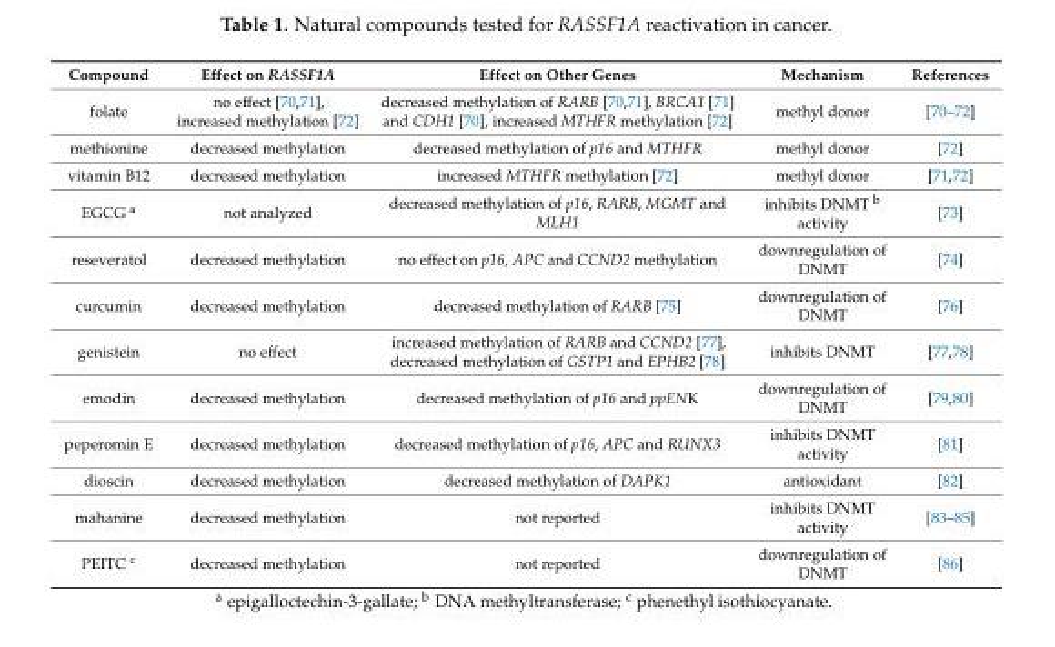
<table><thead><tr><td>Compound</td><td>Effect on RASSF1A</td><td>Effect on Other Genes</td><td>Mechanism</td><td>References</td></tr></thead><tbody><tr><td>folate</td><td>no effect [70,71], increased methylation [72]</td><td>decreased methylation of RARB [70,71], BRCA1 [71] and CDH1 [70], increased MTHFR methylation [72]</td><td>methyl donor</td><td>[70–72]</td></tr><tr><td>methionine</td><td>decreased methylation</td><td>decreased methylation of p16 and MTHFR</td><td>methyl donor</td><td>[72]</td></tr><tr><td>vitamin B12</td><td>decreased methylation</td><td>increased MTHFR methylation [72]</td><td>methyl donor</td><td>[71,72]</td></tr><tr><td>EGCG <sup>a</sup></td><td>not analyzed</td><td>decreased methylation of p16, RARB, MGMT and MLH1</td><td>inhibits DNMT <sup>b</sup> activity</td><td>[73]</td></tr><tr><td>reseveratol</td><td>decreased methylation</td><td>no effect on p16, APC and CCND2 methylation</td><td>downregulation of DNMT</td><td>[74]</td></tr><tr><td>curcumin</td><td>decreased methylation</td><td>decreased methylation of RARB [75]</td><td>downregulation of DNMT</td><td>[76]</td></tr><tr><td>genistein</td><td>no effect</td><td>increased methylation of RARB and CCND2 [77], decreased methylation of GSTP1 and EPHB2 [78]</td><td>inhibits DNMT</td><td>[77,78]</td></tr><tr><td>emodin</td><td>decreased methylation</td><td>decreased methylation of p16 and ppENK</td><td>downregulation of DNMT</td><td>[79,80]</td></tr><tr><td>peperomin E</td><td>decreased methylation</td><td>decreased methylation of p16, APC and RUNX3</td><td>inhibits DNMT activity</td><td>[81]</td></tr><tr><td>dioscin</td><td>decreased methylation</td><td>decreased methylation of DAPK1</td><td>antioxidant</td><td>[82]</td></tr><tr><td>mahanine</td><td>decreased methylation</td><td>not reported</td><td>inhibits DNMT activity</td><td>[83–85]</td></tr><tr><td>PEITC <sup>c</sup></td><td>decreased methylation</td><td>not reported</td><td>downregulation of DNMT</td><td>[86]</td></tr></tbody></table>